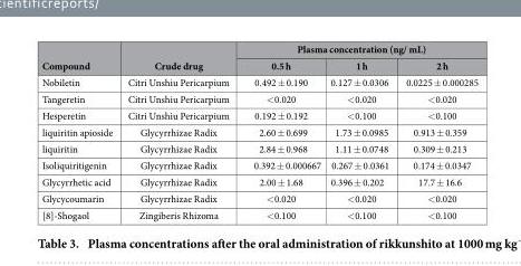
<table><thead><tr><td rowspan="2">Compound</td><td rowspan="2">Crude drug</td><td colspan="3">Plasma concentration (ng/ mL)</td></tr><tr><td>0.5 h</td><td>1 h</td><td>2 h</td></tr></thead><tbody><tr><td>Nobiletin</td><td>Citri Unshiu Pericarpium</td><td>0.492 ± 0.190</td><td>0.127 ± 0.0306</td><td>0.0225 ± 0.000285</td></tr><tr><td>Tangeretin</td><td>Citri Unshiu Pericarpium</td><td>&lt;0.020</td><td>&lt;0.020</td><td>&lt;0.020</td></tr><tr><td>Hesperetin</td><td>Citri Unshiu Pericarpium</td><td>0.192 ± 0.192</td><td>&lt;0.100</td><td>&lt;0.100</td></tr><tr><td>liquiritin apioside</td><td>Glycyrrhizae Radix</td><td>2.60 ± 0.699</td><td>1.73 ± 0.0985</td><td>0.913 ± 0.359</td></tr><tr><td>liquiritin</td><td>Glycyrrhizae Radix</td><td>2.84 ± 0.968</td><td>1.11 ± 0.0748</td><td>0.309 ± 0.213</td></tr><tr><td>Isoliquiritigenin</td><td>Glycyrrhizae Radix</td><td>0.392 ± 0.000667</td><td>0.267 ± 0.0361</td><td>0.174 ± 0.0347</td></tr><tr><td>Glycyrrhetic acid</td><td>Glycyrrhizae Radix</td><td>2.00 ± 1.68</td><td>0.396 ± 0.202</td><td>17.7 ± 16.6</td></tr><tr><td>Glycycoumarin</td><td>Glycyrrhizae Radix</td><td>&lt;0.020</td><td>&lt;0.020</td><td>&lt;0.020</td></tr><tr><td>[8]-Shogaol</td><td>Zingiberis Rhizoma</td><td>&lt;0.100</td><td>&lt;0.100</td><td>&lt;0.100</td></tr></tbody></table>